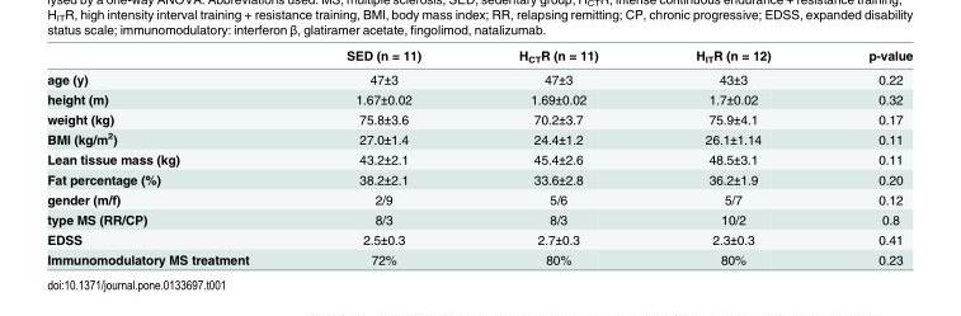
<table><thead><tr><td></td><td>SED (n = 11)</td><td>H<sub>CT</sub>R (n = 11)</td><td>H<sub>IT</sub>R (n = 12)</td><td>p-value</td></tr></thead><tbody><tr><td>age (y)</td><td>47±3</td><td>47±3</td><td>43±3</td><td>0.22</td></tr><tr><td>height (m)</td><td>1.67±0.02</td><td>1.69±0.02</td><td>1.7±0.02</td><td>0.32</td></tr><tr><td>weight (kg)</td><td>75.8±3.6</td><td>70.2±3.7</td><td>75.9±4.1</td><td>0.17</td></tr><tr><td>BMI (kg/m<sup>2</sup>)</td><td>27.0±1.4</td><td>24.4±1.2</td><td>26.1±1.14</td><td>0.11</td></tr><tr><td>Lean tissue mass (kg)</td><td>43.2±2.1</td><td>45.4±2.6</td><td>48.5±3.1</td><td>0.11</td></tr><tr><td>Fat percentage (%)</td><td>38.2±2.1</td><td>33.6±2.8</td><td>36.2±1.9</td><td>0.20</td></tr><tr><td>gender (m/f)</td><td>2/9</td><td>5/6</td><td>5/7</td><td>0.12</td></tr><tr><td>type MS (RR/CP)</td><td>8/3</td><td>8/3</td><td>10/2</td><td>0.8</td></tr><tr><td>EDSS</td><td>2.5±0.3</td><td>2.7±0.3</td><td>2.3±0.3</td><td>0.41</td></tr><tr><td>Immunomodulatory MS treatment</td><td>72%</td><td>80%</td><td>80%</td><td>0.23</td></tr></tbody></table>